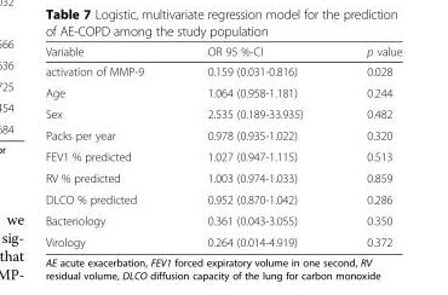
<table><thead><tr><td>Variable</td><td>OR 95 %-CI</td><td>p value</td></tr></thead><tbody><tr><td>activation of MMP-9</td><td>0.159 (0.031-0.816)</td><td>0.028</td></tr><tr><td>Age</td><td>1.064 (0.958-1.181)</td><td>0.244</td></tr><tr><td>Sex</td><td>2.535 (0.189-33.935)</td><td>0.482</td></tr><tr><td>Packs per year</td><td>0.978 (0.935-1.022)</td><td>0.320</td></tr><tr><td>FEV1 % predicted</td><td>1.027 (0.947-1.115)</td><td>0.513</td></tr><tr><td>RV % predicted</td><td>1.003 (0.974-1.033)</td><td>0.859</td></tr><tr><td>DLCO % predicted</td><td>0.952 (0.870-1.042)</td><td>0.286</td></tr><tr><td>Bacteriology</td><td>0.361 (0.043-3.055)</td><td>0.350</td></tr><tr><td>Virology</td><td>0.264 (0.014-4.919)</td><td>0.372</td></tr></tbody></table>